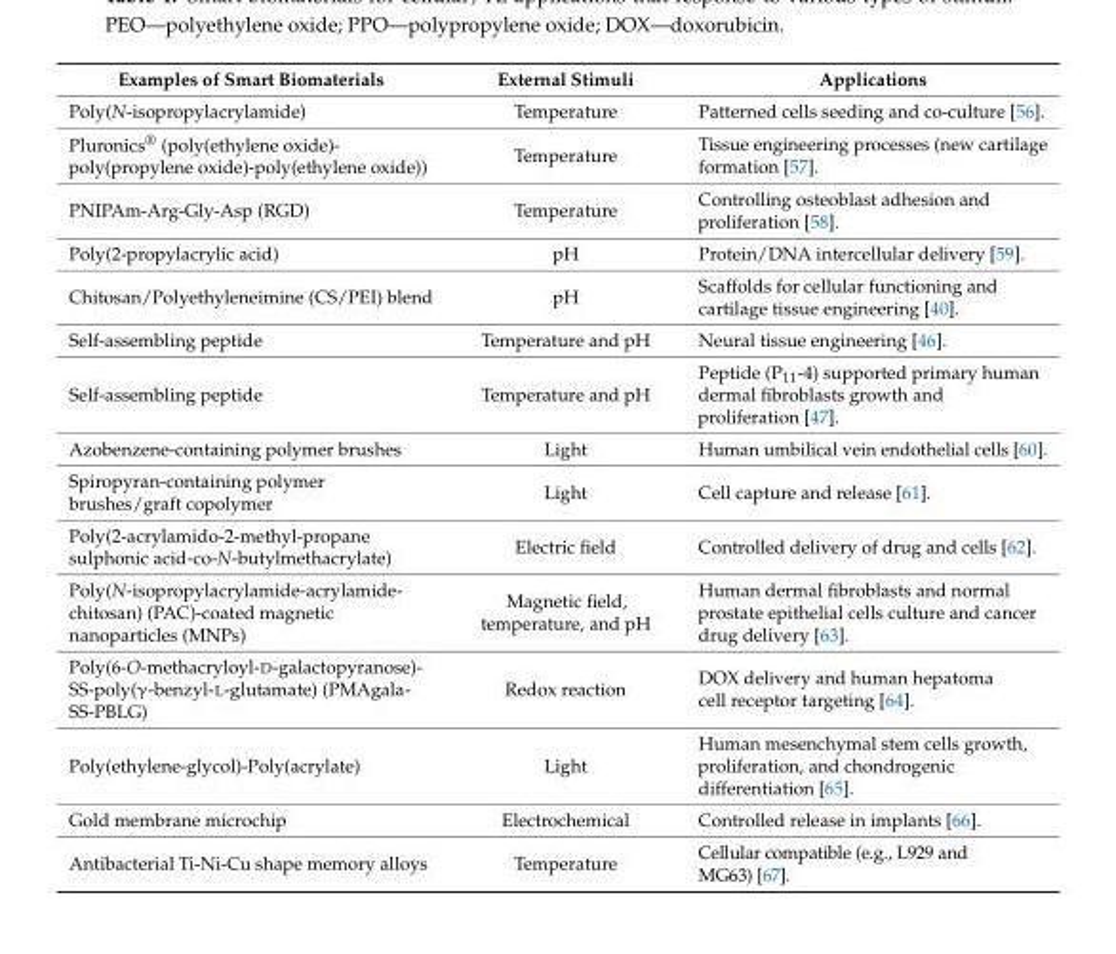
<table><thead><tr><td>Examples of Smart Biomaterials</td><td>External Stimuli</td><td>Applications</td></tr></thead><tbody><tr><td>Poly(N-isopropylacrylamide)</td><td>Temperature</td><td>Patterned cells seeding and co-culture [56].</td></tr><tr><td>Pluronics<sup>®</sup> (poly(ethylene oxide)- poly(propylene oxide)-poly(ethylene oxide))</td><td>Temperature</td><td>Tissue engineering processes (new cartilage formation [57].</td></tr><tr><td>PNIPAm-Arg-Gly-Asp (RGD)</td><td>Temperature</td><td>Controlling osteoblast adhesion and proliferation [58].</td></tr><tr><td>Poly(2-propylacrylic acid)</td><td>pH</td><td>Protein/DNA intercellular delivery [59].</td></tr><tr><td>Chitosan/Polyethyleneimine (CS/PEI) blend</td><td>pH</td><td>Scaffolds for cellular functioning and cartilage tissue engineering [40].</td></tr><tr><td>Self-assembling peptide</td><td>Temperature and pH</td><td>Neural tissue engineering [46].</td></tr><tr><td>Self-assembling peptide</td><td>Temperature and pH</td><td>Peptide (P<sub>11</sub>-4) supported primary human dermal fibroblasts growth and proliferation [47].</td></tr><tr><td>Azobenzene-containing polymer brushes</td><td>Light</td><td>Human umbilical vein endothelial cells [60].</td></tr><tr><td>Spiropyran-containing polymer brushes/graft copolymer</td><td>Light</td><td>Cell capture and release [61].</td></tr><tr><td>Poly(2-acrylamido-2-methyl-propane sulphonic acid-co-N-butylmethacrylate)</td><td>Electric field</td><td>Controlled delivery of drug and cells [62].</td></tr><tr><td>Poly(N-isopropylacrylamide-acrylamide- chitosan) (PAC)-coated magnetic nanoparticles (MNPs)</td><td>Magnetic field, temperature, and pH</td><td>Human dermal fibroblasts and normal prostate epithelial cells culture and cancer drug delivery [63].</td></tr><tr><td>Poly(6-O-methacryloyl-D-galactopyranose)- SS-poly(γ-benzyl-L-glutamate) (PMAgala- SS-PBLG)</td><td>Redox reaction</td><td>DOX delivery and human hepatoma cell receptor targeting [64].</td></tr><tr><td>Poly(ethylene-glycol)-Poly(acrylate)</td><td>Light</td><td>Human mesenchymal stem cells growth, proliferation, and chondrogenic differentiation [65].</td></tr><tr><td>Gold membrane microchip</td><td>Electrochemical</td><td>Controlled release in implants [66].</td></tr><tr><td>Antibacterial Ti-Ni-Cu shape memory alloys</td><td>Temperature</td><td>Cellular compatible (e.g., L929 and MG63) [67].</td></tr></tbody></table>